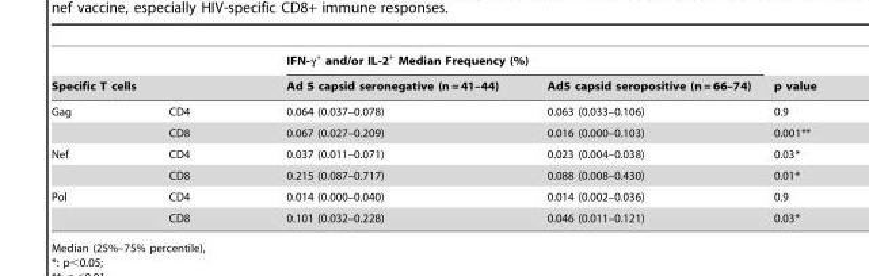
<table><thead><tr><td></td><td></td><td colspan="2">IFN-γ<sup>+</sup> and/or IL-2<sup>+</sup> Median Frequency (%)</td><td rowspan="2">p value</td></tr><tr><td colspan="2">Specific T cells</td><td>Ad 5 capsid seronegative (n = 41–44)</td><td>Ad5 capsid seropositive (n = 66–74)</td></tr></thead><tbody><tr><td rowspan="2">Gag</td><td>CD4</td><td>0.064 (0.037–0.078)</td><td>0.063 (0.033–0.106)</td><td>0.9</td></tr><tr><td>CD8</td><td>0.067 (0.027–0.209)</td><td>0.016 (0.000–0.103)</td><td>0.001**</td></tr><tr><td rowspan="2">Nef</td><td>CD4</td><td>0.037 (0.011–0.071)</td><td>0.023 (0.004–0.038)</td><td>0.03*</td></tr><tr><td>CD8</td><td>0.215 (0.087–0.717)</td><td>0.088 (0.008–0.430)</td><td>0.01*</td></tr><tr><td rowspan="2">Pol</td><td>CD4</td><td>0.014 (0.000–0.040)</td><td>0.014 (0.002–0.036)</td><td>0.9</td></tr><tr><td>CD8</td><td>0.101 (0.032–0.228)</td><td>0.046 (0.011–0.121)</td><td>0.03*</td></tr></tbody></table>